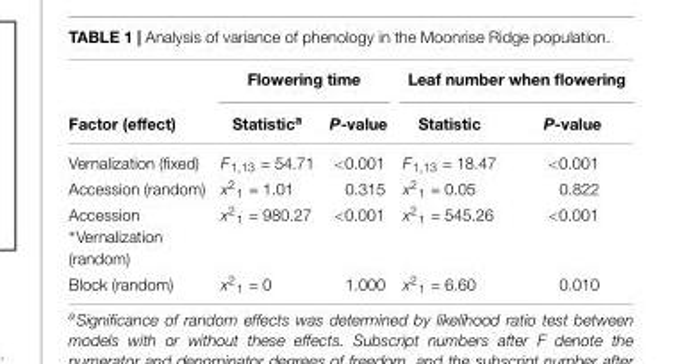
<table><thead><tr><td rowspan="2">Factor (effect)</td><td colspan="2">Flowering time</td><td colspan="2">Leaf number when flowering</td></tr><tr><td>Statistic<sup>a</sup></td><td>P-value</td><td>Statistic</td><td>P-value</td></tr></thead><tbody><tr><td>Vernalization (fixed)</td><td>F<sub>1,13</sub> = 54.71</td><td>&lt;0.001</td><td>F<sub>1,13</sub> = 18.47</td><td>&lt;0.001</td></tr><tr><td>Accession (random)</td><td>x<sup>2</sup><sub>1</sub> = 1.01</td><td>0.315</td><td>x<sup>2</sup><sub>1</sub> = 0.05</td><td>0.822</td></tr><tr><td>Accession ∗Vernalization (random)</td><td>x<sup>2</sup><sub>1</sub> = 980.27</td><td>&lt;0.001</td><td>x<sup>2</sup><sub>1</sub> = 545.26</td><td>&lt;0.001</td></tr><tr><td>Block (random)</td><td>x<sup>2</sup><sub>1</sub> = 0</td><td>1.000</td><td>x<sup>2</sup><sub>1</sub> = 6.60</td><td>0.010</td></tr></tbody></table>